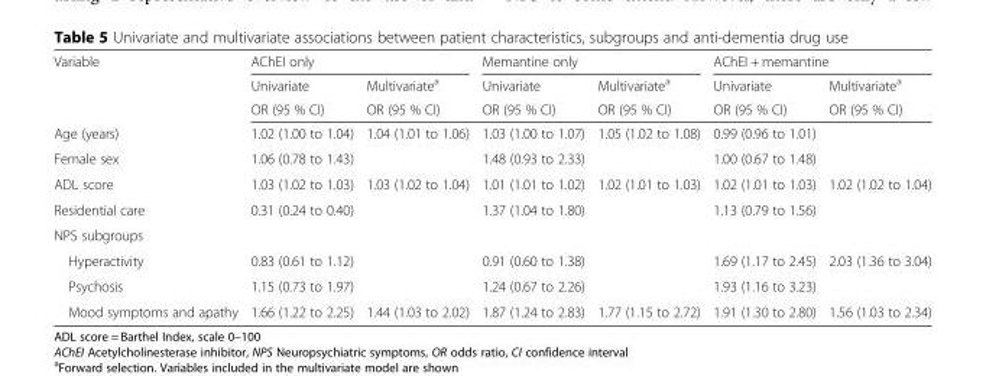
<table><thead><tr><td rowspan="3">Variable</td><td colspan="2">AChEI only</td><td colspan="2">Memantine only</td><td colspan="2">AChEI + memantine</td></tr><tr><td rowspan="2">Univariate OR (95 % CI)</td><td rowspan="2">Multivariate<sup>a</sup> OR (95 % CI)</td><td rowspan="2">Univariate OR (95 % CI)</td><td rowspan="2">Multivariate<sup>a</sup> OR (95 % CI)</td><td rowspan="2">Univariate OR (95 % CI)</td><td rowspan="2">Multivariate<sup>a</sup> OR (95 % CI)</td></tr><tr></tr></thead><tbody><tr><td>Age (years)</td><td>1.02 (1.00 to 1.04)</td><td>1.04 (1.01 to 1.06)</td><td>1.03 (1.00 to 1.07)</td><td>1.05 (1.02 to 1.08)</td><td>0.99 (0.96 to 1.01)</td><td></td></tr><tr><td>Female sex</td><td>1.06 (0.78 to 1.43)</td><td></td><td>1.48 (0.93 to 2.33)</td><td></td><td>1.00 (0.67 to 1.48)</td><td></td></tr><tr><td>ADL score</td><td>1.03 (1.02 to 1.03)</td><td>1.03 (1.02 to 1.04)</td><td>1.01 (1.01 to 1.02)</td><td>1.02 (1.01 to 1.03)</td><td>1.02 (1.01 to 1.03)</td><td>1.02 (1.02 to 1.04)</td></tr><tr><td>Residential care</td><td>0.31 (0.24 to 0.40)</td><td></td><td>1.37 (1.04 to 1.80)</td><td></td><td>1.13 (0.79 to 1.56)</td><td></td></tr><tr><td colspan="7">NPS subgroups</td></tr><tr><td>Hyperactivity</td><td>0.83 (0.61 to 1.12)</td><td></td><td>0.91 (0.60 to 1.38)</td><td></td><td>1.69 (1.17 to 2.45)</td><td>2.03 (1.36 to 3.04)</td></tr><tr><td>Psychosis</td><td>1.15 (0.73 to 1.97)</td><td></td><td>1.24 (0.67 to 2.26)</td><td></td><td>1.93 (1.16 to 3.23)</td><td></td></tr><tr><td>Mood symptoms and apathy</td><td>1.66 (1.22 to 2.25)</td><td>1.44 (1.03 to 2.02)</td><td>1.87 (1.24 to 2.83)</td><td>1.77 (1.15 to 2.72)</td><td>1.91 (1.30 to 2.80)</td><td>1.56 (1.03 to 2.34)</td></tr></tbody></table>